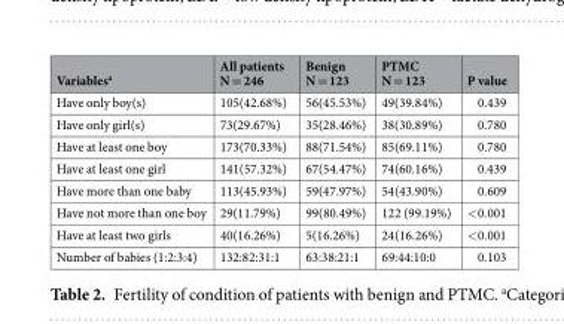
<table><thead><tr><td>Variables<sup>a</sup></td><td>All patients N = 246</td><td>Benign N = 123</td><td>PTMC N = 123</td><td>P value</td></tr></thead><tbody><tr><td>Have only boy(s)</td><td>105(42.68%)</td><td>56(45.53%)</td><td>49(39.84%)</td><td>0.439</td></tr><tr><td>Have only girl(s)</td><td>73(29.67%)</td><td>35(28.46%)</td><td>38(30.89%)</td><td>0.780</td></tr><tr><td>Have at least one boy</td><td>173(70.33%)</td><td>88(71.54%)</td><td>85(69.11%)</td><td>0.780</td></tr><tr><td>Have at least one girl</td><td>141(57.32%)</td><td>67(54.47%)</td><td>74(60.16%)</td><td>0.439</td></tr><tr><td>Have more than one baby</td><td>113(45.93%)</td><td>59(47.97%)</td><td>54(43.90%)</td><td>0.609</td></tr><tr><td>Have not more than one boy</td><td>29(11.79%)</td><td>99(80.49%)</td><td>122 (99.19%)</td><td>&lt;0.001</td></tr><tr><td>Have at least two girls</td><td>40(16.26%)</td><td>5(16.26%)</td><td>24(16.26%)</td><td>&lt;0.001</td></tr><tr><td>Number of babies (1:2:3:4)</td><td>132:82:31:1</td><td>63:38:21:1</td><td>69:44:10:0</td><td>0.103</td></tr></tbody></table>